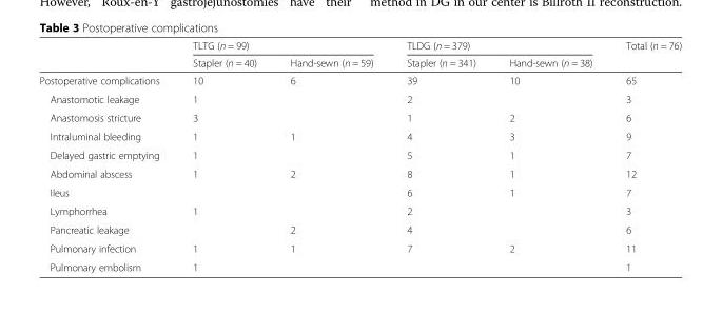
<table><thead><tr><td rowspan="2"></td><td colspan="2">TLTG (n = 99)</td><td colspan="2">TLDG (n = 379)</td><td rowspan="2">Total (n = 76)</td></tr><tr><td>Stapler (n = 40)</td><td>Hand-sewn (n = 59)</td><td>Stapler (n = 341)</td><td>Hand-sewn (n = 38)</td></tr></thead><tbody><tr><td>Postoperative complications</td><td>10</td><td>6</td><td>39</td><td>10</td><td>65</td></tr><tr><td>Anastomotic leakage</td><td>1</td><td></td><td>2</td><td></td><td>3</td></tr><tr><td>Anastomosis stricture</td><td>3</td><td></td><td>1</td><td>2</td><td>6</td></tr><tr><td>Intraluminal bleeding</td><td>1</td><td>1</td><td>4</td><td>3</td><td>9</td></tr><tr><td>Delayed gastric emptying</td><td>1</td><td></td><td>5</td><td>1</td><td>7</td></tr><tr><td>Abdominal abscess</td><td>1</td><td>2</td><td>8</td><td>1</td><td>12</td></tr><tr><td>Ileus</td><td></td><td></td><td>6</td><td>1</td><td>7</td></tr><tr><td>Lymphorrhea</td><td>1</td><td></td><td>2</td><td></td><td>3</td></tr><tr><td>Pancreatic leakage</td><td></td><td>2</td><td>4</td><td></td><td>6</td></tr><tr><td>Pulmonary infection</td><td>1</td><td>1</td><td>7</td><td>2</td><td>11</td></tr><tr><td>Pulmonary embolism</td><td>1</td><td></td><td></td><td></td><td>1</td></tr></tbody></table>